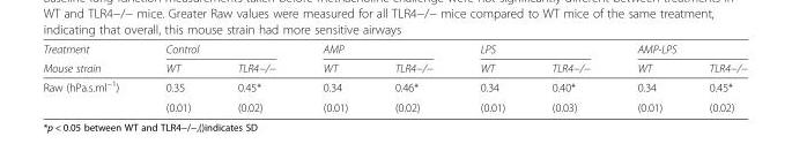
<table><thead><tr><td rowspan="2">Treatment Mouse strain</td><td colspan="2">Control</td><td colspan="2">AMP</td><td colspan="2">LPS</td><td colspan="2">AMP-LPS</td></tr><tr><td>WT</td><td>TLR4−/−</td><td>WT</td><td>TLR4−/−</td><td>WT</td><td>TLR4−/−</td><td>WT</td><td>TLR4−/−</td></tr></thead><tbody><tr><td rowspan="2">Raw (hPa.s.ml<sup>−1</sup>)</td><td>0.35</td><td>0.45*</td><td>0.34</td><td>0.46*</td><td>0.34</td><td>0.40*</td><td>0.34</td><td>0.45*</td></tr><tr><td>(0.01)</td><td>(0.02)</td><td>(0.01)</td><td>(0.02)</td><td>(0.01)</td><td>(0.03)</td><td>(0.01)</td><td>(0.02)</td></tr></tbody></table>